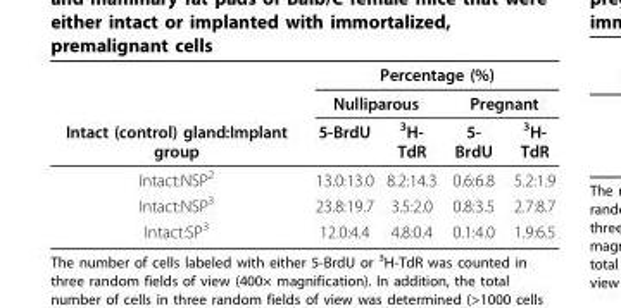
<table><thead><tr><td rowspan="3">Intact (control) gland:Implant group</td><td colspan="4">Percentage (%)</td></tr><tr><td colspan="2">Nulliparous</td><td colspan="2">Pregnant</td></tr><tr><td>5-BrdU</td><td><sup>3</sup>H- TdR</td><td>5- BrdU</td><td><sup>3</sup>H- TdR</td></tr></thead><tbody><tr><td>Intact:NSP<sup>2</sup></td><td>13.0:13.0</td><td>8.2:14.3</td><td>0.6:6.8</td><td>5.2:1.9</td></tr><tr><td>Intact:NSP<sup>3</sup></td><td>23.8:19.7</td><td>3.5:2.0</td><td>0.8:3.5</td><td>2.7:8.7</td></tr><tr><td>Intact:SP<sup>3</sup></td><td>12.0:4.4</td><td>4.8:0.4</td><td>0.1:4.0</td><td>1.9:6.5</td></tr></tbody></table>